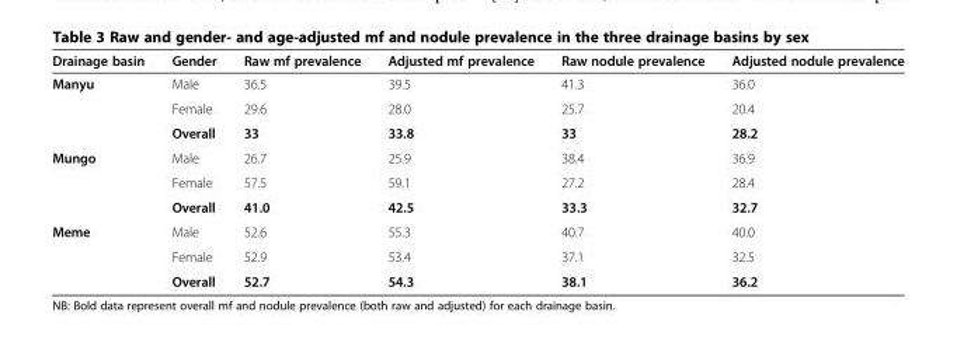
<table><thead><tr><td>Drainage basin</td><td>Gender</td><td>Raw mf prevalence</td><td>Adjusted mf prevalence</td><td>Raw nodule prevalence</td><td>Adjusted nodule prevalence</td></tr></thead><tbody><tr><td rowspan="3">Manyu</td><td>Male</td><td>36.5</td><td>39.5</td><td>41.3</td><td>36.0</td></tr><tr><td>Female</td><td>29.6</td><td>28.0</td><td>25.7</td><td>20.4</td></tr><tr><td>Overall</td><td>33</td><td>33.8</td><td>33</td><td>28.2</td></tr><tr><td rowspan="3">Mungo</td><td>Male</td><td>26.7</td><td>25.9</td><td>38.4</td><td>36.9</td></tr><tr><td>Female</td><td>57.5</td><td>59.1</td><td>27.2</td><td>28.4</td></tr><tr><td>Overall</td><td>41.0</td><td>42.5</td><td>33.3</td><td>32.7</td></tr><tr><td rowspan="3">Meme</td><td>Male</td><td>52.6</td><td>55.3</td><td>40.7</td><td>40.0</td></tr><tr><td>Female</td><td>52.9</td><td>53.4</td><td>37.1</td><td>32.5</td></tr><tr><td>Overall</td><td>52.7</td><td>54.3</td><td>38.1</td><td>36.2</td></tr></tbody></table>